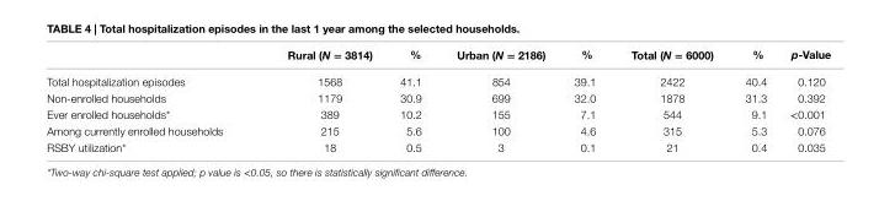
<table><thead><tr><td></td><td>rural (N = 3814)</td><td>%</td><td>Urban (N = 2186)</td><td>%</td><td>Total (N = 6000)</td><td>%</td><td>p-Value</td></tr></thead><tbody><tr><td>Total hospitalization episodes</td><td>1568</td><td>41.1</td><td>854</td><td>39.1</td><td>2422</td><td>40.4</td><td>0.120</td></tr><tr><td>Non-enrolled households</td><td>1179</td><td>30.9</td><td>699</td><td>32.0</td><td>1878</td><td>31.3</td><td>0.392</td></tr><tr><td>Ever enrolled households*</td><td>389</td><td>10.2</td><td>155</td><td>7.1</td><td>544</td><td>9.1</td><td>&lt;0.001</td></tr><tr><td>Among currently enrolled households</td><td>215</td><td>5.6</td><td>100</td><td>4.6</td><td>315</td><td>5.3</td><td>0.076</td></tr><tr><td>RSBY utilization*</td><td>18</td><td>0.5</td><td>3</td><td>0.1</td><td>21</td><td>0.4</td><td>0.035</td></tr></tbody></table>